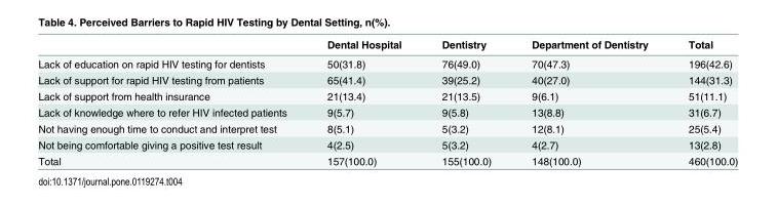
<table><thead><tr><td></td><td>Dental Hospital</td><td>Dentistry</td><td>Department of Dentistry</td><td>Total</td></tr></thead><tbody><tr><td>Lack of education on rapid HIV testing for dentists</td><td>50(31.8)</td><td>76(49.0)</td><td>70(47.3)</td><td>196(42.6)</td></tr><tr><td>Lack of support for rapid HIV testing from patients</td><td>65(41.4)</td><td>39(25.2)</td><td>40(27.0)</td><td>144(31.3)</td></tr><tr><td>Lack of support from health insurance</td><td>21(13.4)</td><td>21(13.5)</td><td>9(6.1)</td><td>51(11.1)</td></tr><tr><td>Lack of knowledge where to refer HIV infected patients</td><td>9(5.7)</td><td>9(5.8)</td><td>13(8.8)</td><td>31(6.7)</td></tr><tr><td>Not having enough time to conduct and interpret test</td><td>8(5.1)</td><td>5(3.2)</td><td>12(8.1)</td><td>25(5.4)</td></tr><tr><td>Not being comfortable giving a positive test result</td><td>4(2.5)</td><td>5(3.2)</td><td>4(2.7)</td><td>13(2.8)</td></tr><tr><td>Total</td><td>157(100.0)</td><td>155(100.0)</td><td>148(100.0)</td><td>460(100.0)</td></tr></tbody></table>